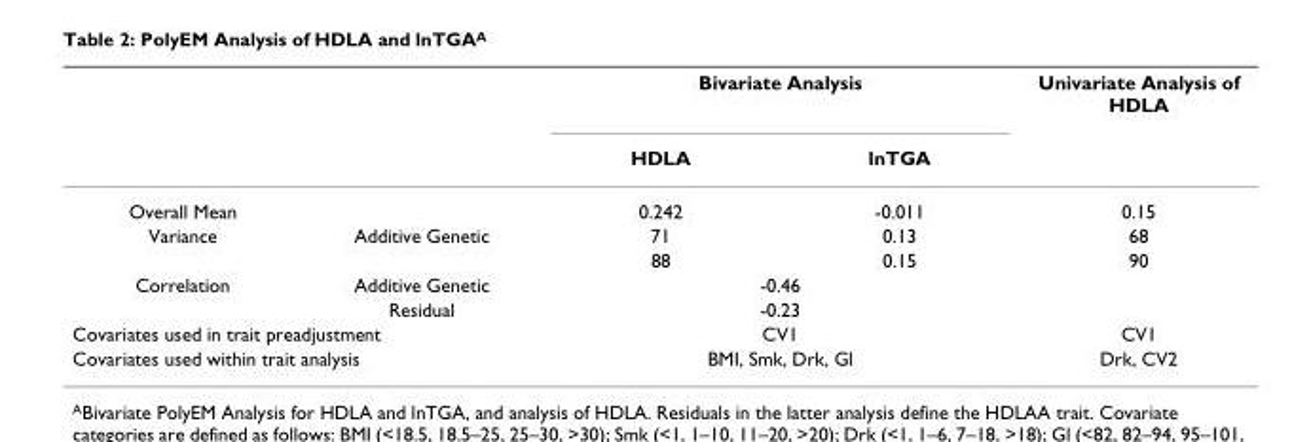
<table><thead><tr><td rowspan="2"></td><td rowspan="2"></td><td colspan="2">Bivariate Analysis</td><td rowspan="2">Univariate Analysis of HDLA</td></tr><tr><td>HDLA</td><td>lnTGA</td></tr></thead><tbody><tr><td>Overall Mean</td><td></td><td>0.242</td><td>-0.011</td><td>0.15</td></tr><tr><td rowspan="2">Variance</td><td>Additive Genetic</td><td>71</td><td>0.13</td><td>68</td></tr><tr><td></td><td>88</td><td>0.15</td><td>90</td></tr><tr><td rowspan="2">Correlation</td><td>Additive Genetic</td><td colspan="2">-0.46</td><td></td></tr><tr><td>Residual</td><td colspan="2">-0.23</td><td></td></tr><tr><td colspan="2">Covariates used in trait preadjustment</td><td colspan="2">CV1</td><td>CV1</td></tr><tr><td colspan="2">Covariates used within trait analysis</td><td colspan="2">BMI, Smk, Drk, Gl</td><td>Drk, CV2</td></tr></tbody></table>